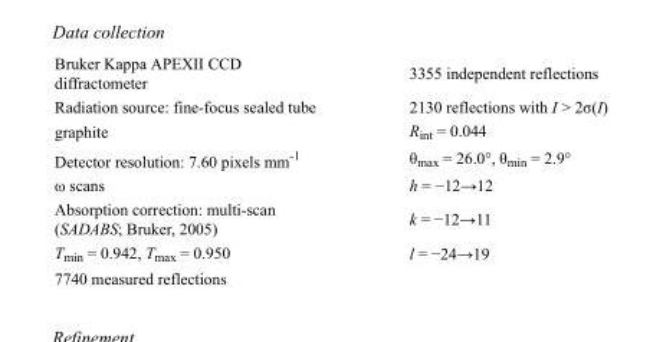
<table><tbody><tr><td>Bruker Kappa APEXII CCD diffractometer</td><td>3355 independent reflections</td></tr><tr><td>Radiation source: fine-focus sealed tube</td><td>2130 reflections with I &gt; 2σ(I)</td></tr><tr><td>graphite</td><td>R<sub>int</sub> = 0.044</td></tr><tr><td>Detector resolution: 7.60 pixels mm<sup>-1</sup></td><td>θ<sub>max</sub> = 26.0°, θ<sub>min</sub> = 2.9°</td></tr><tr><td>ω scans</td><td>h = −12→12</td></tr><tr><td>Absorption correction: multi-scan (SADABS; Bruker, 2005)</td><td>k = −12→11</td></tr><tr><td>T<sub>min</sub> = 0.942, T<sub>max</sub> = 0.950</td><td>l = −24→19</td></tr><tr><td>7740 measured reflections</td><td></td></tr></tbody></table>